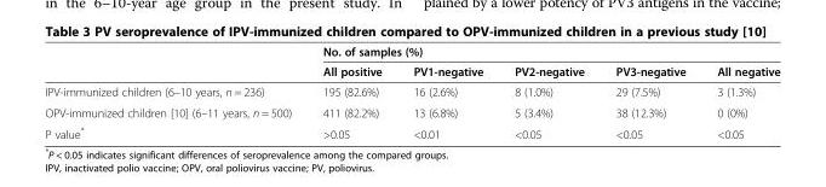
<table><thead><tr><td rowspan="2"></td><td colspan="5">No. of samples (%)</td></tr><tr><td>All positive</td><td>PV1-negative</td><td>PV2-negative</td><td>PV3-negative</td><td>All negative</td></tr></thead><tbody><tr><td>IPV-immunized children (6–10 years, n = 236)</td><td>195 (82.6%)</td><td>16 (2.6%)</td><td>8 (1.0%)</td><td>29 (7.5%)</td><td>3 (1.3%)</td></tr><tr><td>OPV-immunized children [10] (6–11 years, n = 500)</td><td>411 (82.2%)</td><td>13 (6.8%)</td><td>5 (3.4%)</td><td>38 (12.3%)</td><td>0 (0%)</td></tr><tr><td>P value*</td><td>&gt;0.05</td><td>&lt;0.01</td><td>&lt;0.05</td><td>&lt;0.05</td><td>&lt;0.05</td></tr></tbody></table>